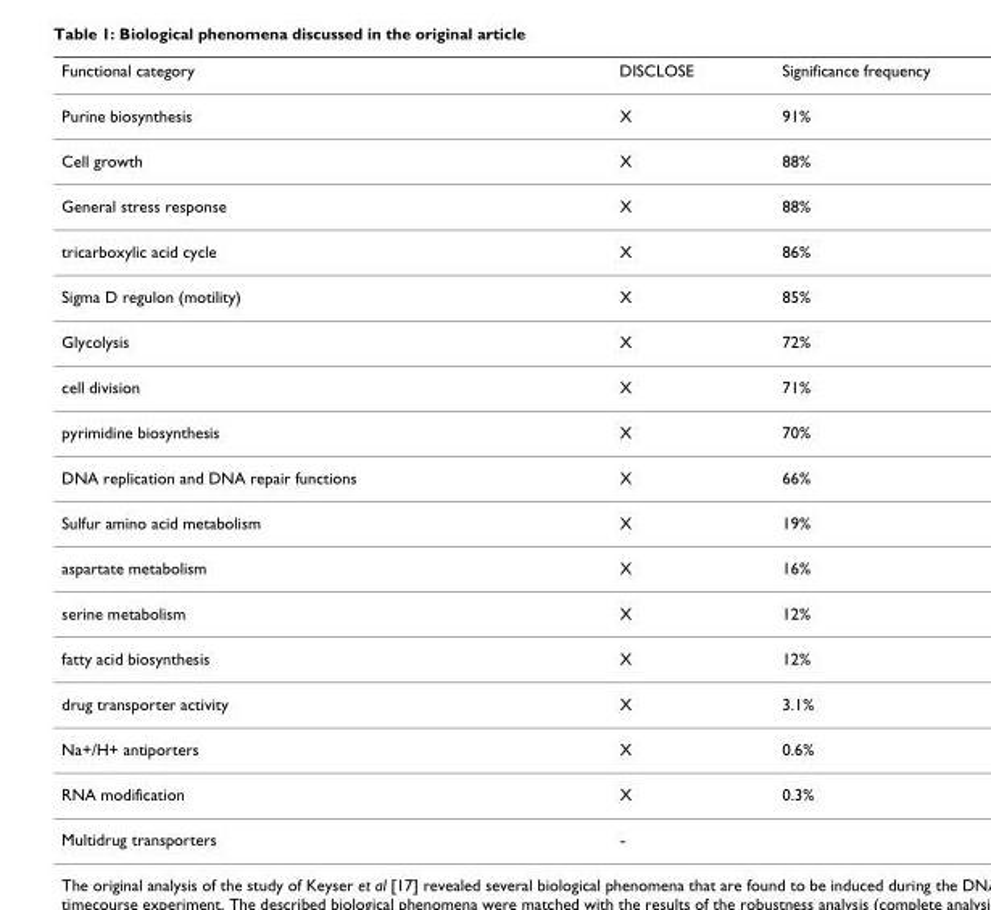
<table><thead><tr><td>Functional category</td><td>DISCLOSE</td><td>Significance frequency</td></tr></thead><tbody><tr><td>Purine biosynthesis</td><td>X</td><td>91%</td></tr><tr><td>Cell growth</td><td>X</td><td>88%</td></tr><tr><td>General stress response</td><td>X</td><td>88%</td></tr><tr><td>tricarboxylic acid cycle</td><td>X</td><td>86%</td></tr><tr><td>Sigma D regulon (motility)</td><td>X</td><td>85%</td></tr><tr><td>Glycolysis</td><td>X</td><td>72%</td></tr><tr><td>cell division</td><td>X</td><td>71%</td></tr><tr><td>pyrimidine biosynthesis</td><td>X</td><td>70%</td></tr><tr><td>DNA replication and DNA repair functions</td><td>X</td><td>66%</td></tr><tr><td>Sulfur amino acid metabolism</td><td>X</td><td>19%</td></tr><tr><td>aspartate metabolism</td><td>X</td><td>16%</td></tr><tr><td>serine metabolism</td><td>X</td><td>12%</td></tr><tr><td>fatty acid biosynthesis</td><td>X</td><td>12%</td></tr><tr><td>drug transporter activity</td><td>X</td><td>3.1%</td></tr><tr><td>Na+/H+ antiporters</td><td>X</td><td>0.6%</td></tr><tr><td>RNA modification</td><td>X</td><td>0.3%</td></tr><tr><td>Multidrug transporters</td><td>-</td><td></td></tr></tbody></table>